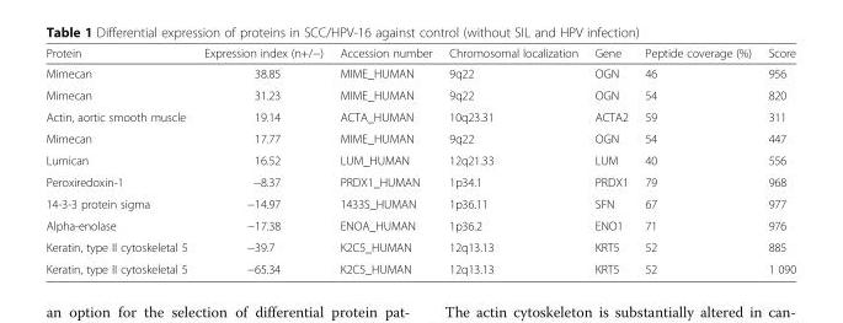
<table><thead><tr><td>Protein</td><td>Expression index (n+/−)</td><td>Accession number</td><td>Chromosomal localization</td><td>Gene</td><td>Peptide coverage (%)</td><td>Score</td></tr></thead><tbody><tr><td>Mimecan</td><td>38.85</td><td>MIME_HUMAN</td><td>9q22</td><td>OGN</td><td>46</td><td>956</td></tr><tr><td>Mimecan</td><td>31.23</td><td>MIME_HUMAN</td><td>9q22</td><td>OGN</td><td>54</td><td>820</td></tr><tr><td>Actin, aortic smooth muscle</td><td>19.14</td><td>ACTA_HUMAN</td><td>10q23.31</td><td>ACTA2</td><td>59</td><td>311</td></tr><tr><td>Mimecan</td><td>17.77</td><td>MIME_HUMAN</td><td>9q22</td><td>OGN</td><td>54</td><td>447</td></tr><tr><td>Lumican</td><td>16.52</td><td>LUM_HUMAN</td><td>12q21.33</td><td>LUM</td><td>40</td><td>556</td></tr><tr><td>Peroxiredoxin-1</td><td>−8.37</td><td>PRDX1_HUMAN</td><td>1p34.1</td><td>PRDX1</td><td>79</td><td>968</td></tr><tr><td>14-3-3 protein sigma</td><td>−14.97</td><td>1433S_HUMAN</td><td>1p36.11</td><td>SFN</td><td>67</td><td>977</td></tr><tr><td>Alpha-enolase</td><td>−17.38</td><td>ENOA_HUMAN</td><td>1p36.2</td><td>ENO1</td><td>71</td><td>976</td></tr><tr><td>Keratin, type II cytoskeletal 5</td><td>−39.7</td><td>K2C5_HUMAN</td><td>12q13.13</td><td>KRT5</td><td>52</td><td>885</td></tr><tr><td>Keratin, type II cytoskeletal 5</td><td>−65.34</td><td>K2C5_HUMAN</td><td>12q13.13</td><td>KRT5</td><td>52</td><td>1 090</td></tr></tbody></table>